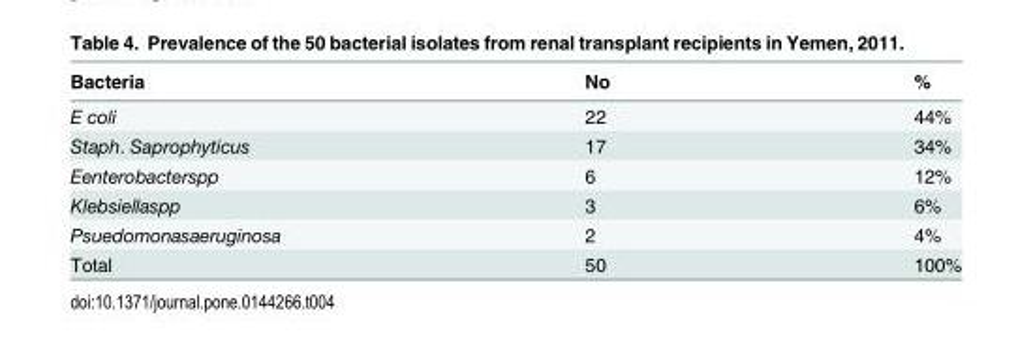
<table><thead><tr><td>Bacteria</td><td>No</td><td>%</td></tr></thead><tbody><tr><td>E coli</td><td>22</td><td>44%</td></tr><tr><td>Staph. Saprophyticus</td><td>17</td><td>34%</td></tr><tr><td>Eenterobacterspp</td><td>6</td><td>12%</td></tr><tr><td>Klebsiellaspp</td><td>3</td><td>6%</td></tr><tr><td>Psuedomonasaeruginosa</td><td>2</td><td>4%</td></tr><tr><td>Total</td><td>50</td><td>100%</td></tr></tbody></table>